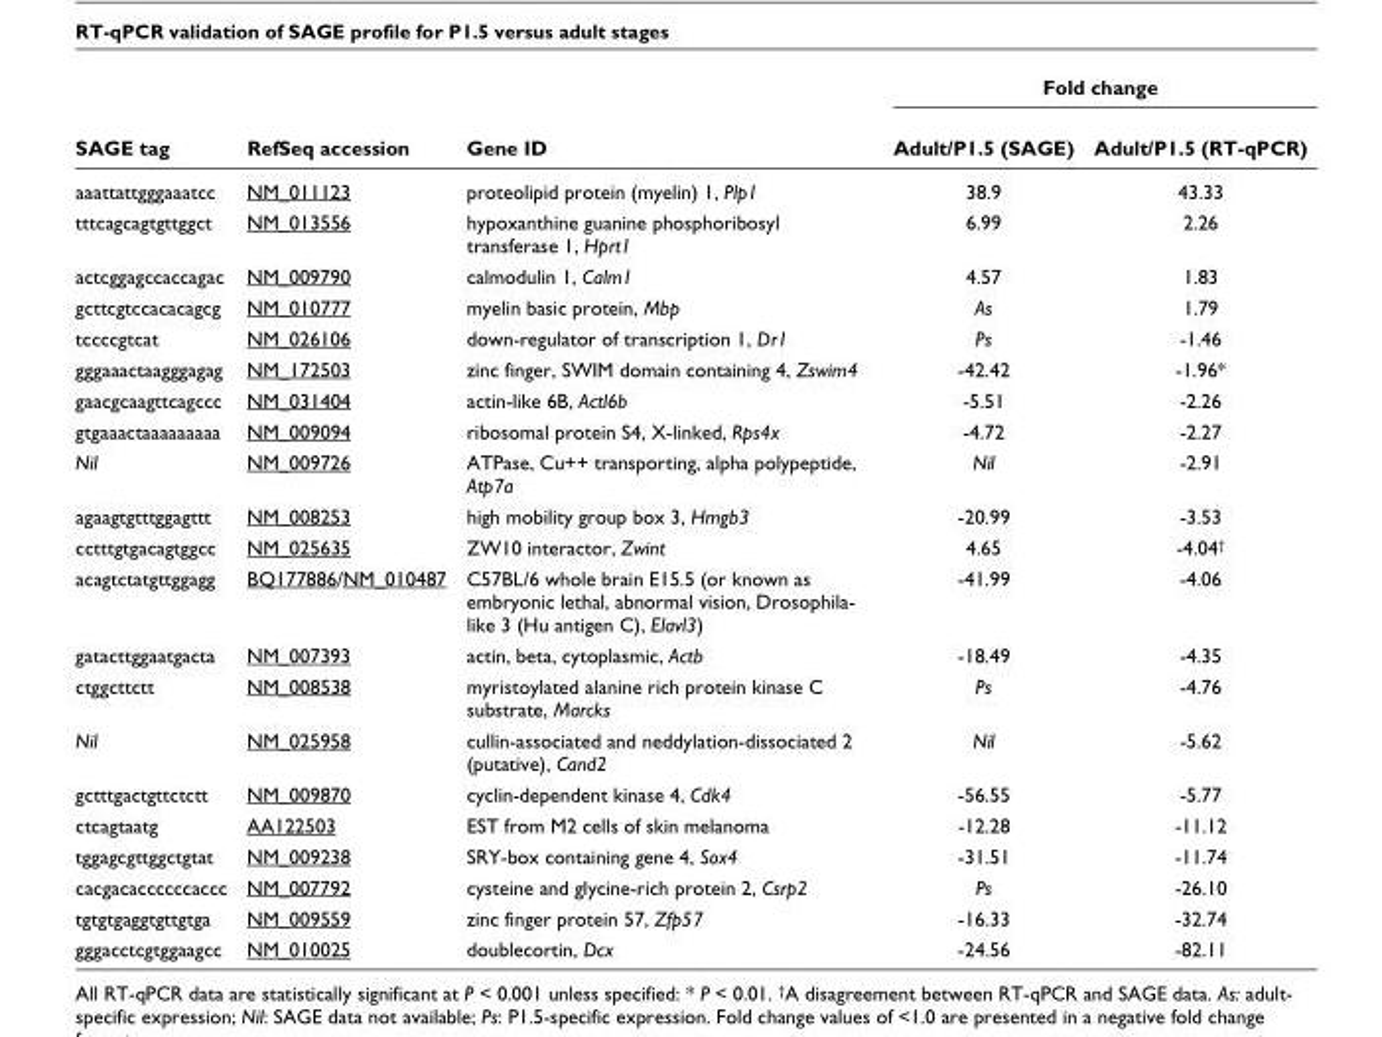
<table><thead><tr><td rowspan="2">SAGE tag</td><td rowspan="2">RefSeq accession</td><td rowspan="2">Gene ID</td><td colspan="2">Fold change</td></tr><tr><td>Adult/P1.5 (SAGE)</td><td>Adult/P1.5 (RT-qPCR)</td></tr></thead><tbody><tr><td>aaattattgggaaatcc</td><td>NM_011123</td><td>proteolipid protein (myelin) 1, Plp1</td><td>38.9</td><td>43.33</td></tr><tr><td>tttcagcagtgttggct</td><td>NM_013556</td><td>hypoxanthine guanine phosphoribosyl transferase 1, Hprt1</td><td>6.99</td><td>2.26</td></tr><tr><td>actcggagccaccagac</td><td>NM_009790</td><td>calmodulin 1, Calm1</td><td>4.57</td><td>1.83</td></tr><tr><td>gcttcgtccacacagcg</td><td>NM_010777</td><td>myelin basic protein, Mbp</td><td>As</td><td>1.79</td></tr><tr><td>tccccgtcat</td><td>NM_026106</td><td>down-regulator of transcription 1, Dr1</td><td>Ps</td><td>-1.46</td></tr><tr><td>gggaaactaagggagag</td><td>NM_172503</td><td>zinc finger, SWIM domain containing 4, Zswim4</td><td>-42.42</td><td>-1.96*</td></tr><tr><td>gaacgcaagttcagccc</td><td>NM_031404</td><td>actin-like 6B, Actl6b</td><td>-5.51</td><td>-2.26</td></tr><tr><td>gtgaaactaaaaaaaaa</td><td>NM_009094</td><td>ribosomal protein S4, X-linked, Rps4x</td><td>-4.72</td><td>-2.27</td></tr><tr><td>Nil</td><td>NM_009726</td><td>ATPase, Cu++ transporting, alpha polypeptide, Atp7a</td><td>Nil</td><td>-2.91</td></tr><tr><td>agaagtgtttggagttt</td><td>NM_008253</td><td>high mobility group box 3, Hmgb3</td><td>-20.99</td><td>-3.53</td></tr><tr><td>cctttgtgacagtggcc</td><td>NM_025635</td><td>ZW10 interactor, Zwint</td><td>4.65</td><td>-4.04<sup>†</sup></td></tr><tr><td>acagtctatgttggagg</td><td>BQ177886/NM_010487</td><td>C57BL/6 whole brain E15.5 (or known as embryonic lethal, abnormal vision, Drosophila- like 3 (Hu antigen C), Elavl3)</td><td>-41.99</td><td>-4.06</td></tr><tr><td>gatacttggaatgacta</td><td>NM_007393</td><td>actin, beta, cytoplasmic, Actb</td><td>-18.49</td><td>-4.35</td></tr><tr><td>ctggcttctt</td><td>NM_008538</td><td>myristoylated alanine rich protein kinase C substrate, Marcks</td><td>Ps</td><td>-4.76</td></tr><tr><td>Nil</td><td>NM_025958</td><td>cullin-associated and neddylation-dissociated 2 (putative), Cand2</td><td>Nil</td><td>-5.62</td></tr><tr><td>gctttgactgttctctt</td><td>NM_009870</td><td>cyclin-dependent kinase 4, Cdk4</td><td>-56.55</td><td>-5.77</td></tr><tr><td>ctcagtaatg</td><td>AA122503</td><td>EST from M2 cells of skin melanoma</td><td>-12.28</td><td>-11.12</td></tr><tr><td>tggagcgttggctgtat</td><td>NM_009238</td><td>SRY-box containing gene 4, Sox4</td><td>-31.51</td><td>-11.74</td></tr><tr><td>cacgacaccccccaccc</td><td>NM_007792</td><td>cysteine and glycine-rich protein 2, Csrp2</td><td>Ps</td><td>-26.10</td></tr><tr><td>tgtgtgaggtgttgtga</td><td>NM_009559</td><td>zinc finger protein 57, Zfp57</td><td>-16.33</td><td>-32.74</td></tr><tr><td>gggacctcgtggaagcc</td><td>NM_010025</td><td>doublecortin, Dcx</td><td>-24.56</td><td>-82.11</td></tr></tbody></table>